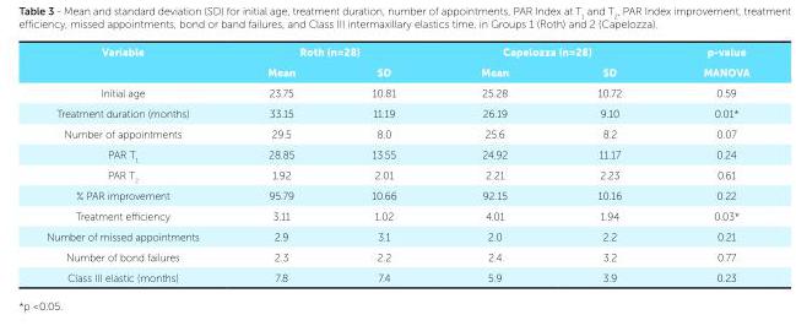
<table><tbody><tr><td rowspan="2">Variable</td><td colspan="2">Roth (n=28)</td><td colspan="2">Capelozza (n=28)</td><td>p-value</td></tr><tr><td>Mean</td><td>SD</td><td>Mean</td><td>SD</td><td>MANOVA</td></tr><tr><td>Initial age</td><td>23.75</td><td>10.81</td><td>25.28</td><td>10.72</td><td>0.59</td></tr><tr><td>Treatment duration (months)</td><td>33.15</td><td>11.19</td><td>26.19</td><td>9.10</td><td>0.01*</td></tr><tr><td>Number of appointments</td><td>29.5</td><td>8.0</td><td>25.6</td><td>8.2</td><td>0.07</td></tr><tr><td>PAR T<sub>1</sub></td><td>28.85</td><td>13.55</td><td>24.92</td><td>11.17</td><td>0.24</td></tr><tr><td>PAR T<sub>2</sub></td><td>1.92</td><td>2.01</td><td>2.21</td><td>2.23</td><td>0.61</td></tr><tr><td>% PAR improvement</td><td>95.79</td><td>10.66</td><td>92.15</td><td>10.16</td><td>0.22</td></tr><tr><td>Treatment efficiency</td><td>3.11</td><td>1.02</td><td>4.01</td><td>1.94</td><td>0.03*</td></tr><tr><td>Number of missed appointments</td><td>2.9</td><td>3.1</td><td>2.0</td><td>2.2</td><td>0.21</td></tr><tr><td>Number of bond failures</td><td>2.3</td><td>2.2</td><td>2.4</td><td>3.2</td><td>0.77</td></tr><tr><td>Class III elastic (months)</td><td>7.8</td><td>7.4</td><td>5.9</td><td>3.9</td><td>0.23</td></tr></tbody></table>